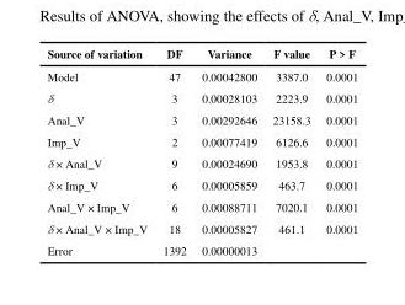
<table><thead><tr><td>Source of variation</td><td>DF</td><td>Variance</td><td>F value</td><td>P &gt; F</td></tr></thead><tbody><tr><td>Model</td><td>47</td><td>0.00042800</td><td>3387.0</td><td>0.0001</td></tr><tr><td>δ</td><td>3</td><td>0.00028103</td><td>2223.9</td><td>0.0001</td></tr><tr><td>Anal_V</td><td>3</td><td>0.00292646</td><td>23158.3</td><td>0.0001</td></tr><tr><td>Imp_V</td><td>2</td><td>0.00077419</td><td>6126.6</td><td>0.0001</td></tr><tr><td>δ × Anal_V</td><td>9</td><td>0.00024690</td><td>1953.8</td><td>0.0001</td></tr><tr><td>δ × Imp_V</td><td>6</td><td>0.00005859</td><td>463.7</td><td>0.0001</td></tr><tr><td>Anal_V × Imp_V</td><td>6</td><td>0.00088711</td><td>7020.1</td><td>0.0001</td></tr><tr><td>δ × Anal_V × Imp_V</td><td>18</td><td>0.00005827</td><td>461.1</td><td>0.0001</td></tr><tr><td>Error</td><td>1392</td><td>0.00000013</td><td></td><td></td></tr></tbody></table>